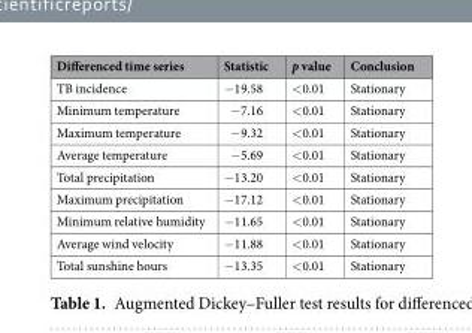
<table><thead><tr><td>Differenced time series</td><td>Statistic</td><td>p value</td><td>Conclusion</td></tr></thead><tbody><tr><td>TB incidence</td><td>−19.58</td><td>&lt;0.01</td><td>Stationary</td></tr><tr><td>Minimum temperature</td><td>−7.16</td><td>&lt;0.01</td><td>Stationary</td></tr><tr><td>Maximum temperature</td><td>−9.32</td><td>&lt;0.01</td><td>Stationary</td></tr><tr><td>Average temperature</td><td>−5.69</td><td>&lt;0.01</td><td>Stationary</td></tr><tr><td>Total precipitation</td><td>−13.20</td><td>&lt;0.01</td><td>Stationary</td></tr><tr><td>Maximum precipitation</td><td>−17.12</td><td>&lt;0.01</td><td>Stationary</td></tr><tr><td>Minimum relative humidity</td><td>−11.65</td><td>&lt;0.01</td><td>Stationary</td></tr><tr><td>Average wind velocity</td><td>−11.88</td><td>&lt;0.01</td><td>Stationary</td></tr><tr><td>Total sunshine hours</td><td>−13.35</td><td>&lt;0.01</td><td>Stationary</td></tr></tbody></table>